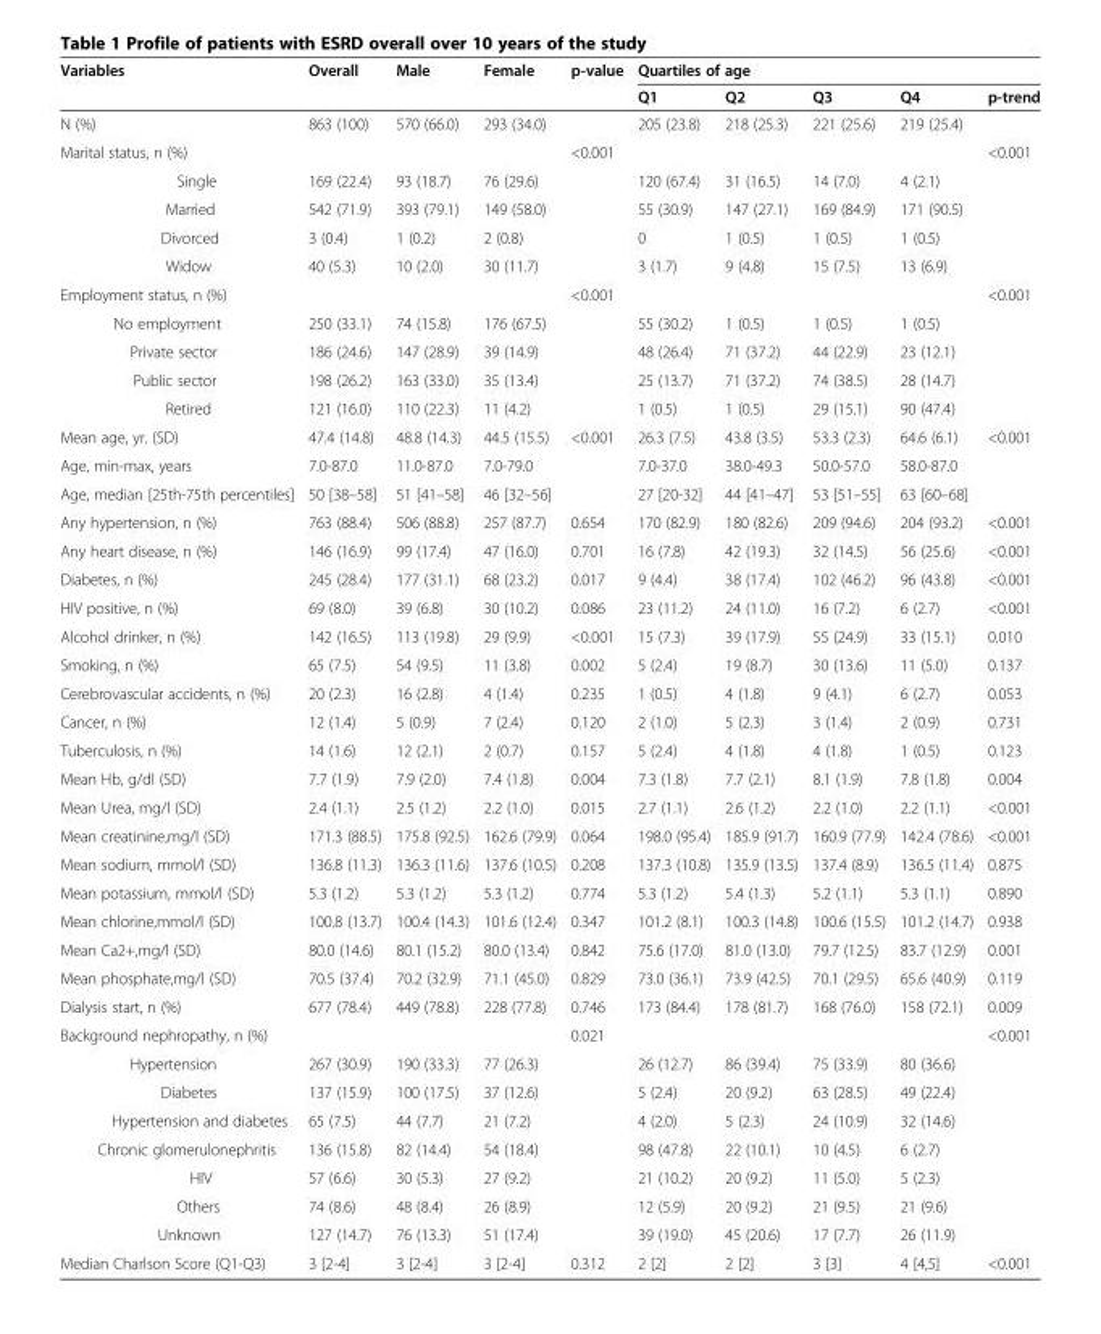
<table><thead><tr><td rowspan="2">Variables</td><td rowspan="2">Overall</td><td rowspan="2">Male</td><td rowspan="2">Female</td><td rowspan="2">p-value</td><td colspan="5">Quartiles of age</td></tr><tr><td>Q1</td><td>Q2</td><td>Q3</td><td>Q4</td><td>p-trend</td></tr></thead><tbody><tr><td>N (%)</td><td>863 (100)</td><td>570 (66.0)</td><td>293 (34.0)</td><td></td><td>205 (23.8)</td><td>218 (25.3)</td><td>221 (25.6)</td><td>219 (25.4)</td><td></td></tr><tr><td>Marital status, n (%)</td><td></td><td></td><td></td><td>&lt;0.001</td><td></td><td></td><td></td><td></td><td>&lt;0.001</td></tr><tr><td>Single</td><td>169 (22.4)</td><td>93 (18.7)</td><td>76 (29.6)</td><td></td><td>120 (67.4)</td><td>31 (16.5)</td><td>14 (7.0)</td><td>4 (2.1)</td><td></td></tr><tr><td>Married</td><td>542 (71.9)</td><td>393 (79.1)</td><td>149 (58.0)</td><td></td><td>55 (30.9)</td><td>147 (27.1)</td><td>169 (84.9)</td><td>171 (90.5)</td><td></td></tr><tr><td>Divorced</td><td>3 (0.4)</td><td>1 (0.2)</td><td>2 (0.8)</td><td></td><td>0</td><td>1 (0.5)</td><td>1 (0.5)</td><td>1 (0.5)</td><td></td></tr><tr><td>Widow</td><td>40 (5.3)</td><td>10 (2.0)</td><td>30 (11.7)</td><td></td><td>3 (1.7)</td><td>9 (4.8)</td><td>15 (7.5)</td><td>13 (6.9)</td><td></td></tr><tr><td>Employment status, n (%)</td><td></td><td></td><td></td><td>&lt;0.001</td><td></td><td></td><td></td><td></td><td>&lt;0.001</td></tr><tr><td>No employment</td><td>250 (33.1)</td><td>74 (15.8)</td><td>176 (67.5)</td><td></td><td>55 (30.2)</td><td>1 (0.5)</td><td>1 (0.5)</td><td>1 (0.5)</td><td></td></tr><tr><td>Private sector</td><td>186 (24.6)</td><td>147 (28.9)</td><td>39 (14.9)</td><td></td><td>48 (26.4)</td><td>71 (37.2)</td><td>44 (22.9)</td><td>23 (12.1)</td><td></td></tr><tr><td>Public sector</td><td>198 (26.2)</td><td>163 (33.0)</td><td>35 (13.4)</td><td></td><td>25 (13.7)</td><td>71 (37.2)</td><td>74 (38.5)</td><td>28 (14.7)</td><td></td></tr><tr><td>Retired</td><td>121 (16.0)</td><td>110 (22.3)</td><td>11 (4.2)</td><td></td><td>1 (0.5)</td><td>1 (0.5)</td><td>29 (15.1)</td><td>90 (47.4)</td><td></td></tr><tr><td>Mean age, yr. (SD)</td><td>47.4 (14.8)</td><td>48.8 (14.3)</td><td>44.5 (15.5)</td><td>&lt;0.001</td><td>26.3 (7.5)</td><td>43.8 (3.5)</td><td>53.3 (2.3)</td><td>64.6 (6.1)</td><td>&lt;0.001</td></tr><tr><td>Age, min-max, years</td><td>7.0-87.0</td><td>11.0-87.0</td><td>7.0-79.0</td><td></td><td>7.0-37.0</td><td>38.0-49.3</td><td>50.0-57.0</td><td>58.0-87.0</td><td></td></tr><tr><td>Age, median [25th-75th percentiles]</td><td>50 [38–58]</td><td>51 [41–58]</td><td>46 [32–56]</td><td></td><td>27 [20-32]</td><td>44 [41–47]</td><td>53 [51–55]</td><td>63 [60–68]</td><td></td></tr><tr><td>Any hypertension, n (%)</td><td>763 (88.4)</td><td>506 (88.8)</td><td>257 (87.7)</td><td>0.654</td><td>170 (82.9)</td><td>180 (82.6)</td><td>209 (94.6)</td><td>204 (93.2)</td><td>&lt;0.001</td></tr><tr><td>Any heart disease, n (%)</td><td>146 (16.9)</td><td>99 (17.4)</td><td>47 (16.0)</td><td>0.701</td><td>16 (7.8)</td><td>42 (19.3)</td><td>32 (14.5)</td><td>56 (25.6)</td><td>&lt;0.001</td></tr><tr><td>Diabetes, n (%)</td><td>245 (28.4)</td><td>177 (31.1)</td><td>68 (23.2)</td><td>0.017</td><td>9 (4.4)</td><td>38 (17.4)</td><td>102 (46.2)</td><td>96 (43.8)</td><td>&lt;0.001</td></tr><tr><td>HIV positive, n (%)</td><td>69 (8.0)</td><td>39 (6.8)</td><td>30 (10.2)</td><td>0.086</td><td>23 (11.2)</td><td>24 (11.0)</td><td>16 (7.2)</td><td>6 (2.7)</td><td>&lt;0.001</td></tr><tr><td>Alcohol drinker, n (%)</td><td>142 (16.5)</td><td>113 (19.8)</td><td>29 (9.9)</td><td>&lt;0.001</td><td>15 (7.3)</td><td>39 (17.9)</td><td>55 (24.9)</td><td>33 (15.1)</td><td>0.010</td></tr><tr><td>Smoking, n (%)</td><td>65 (7.5)</td><td>54 (9.5)</td><td>11 (3.8)</td><td>0.002</td><td>5 (2.4)</td><td>19 (8.7)</td><td>30 (13.6)</td><td>11 (5.0)</td><td>0.137</td></tr><tr><td>Cerebrovascular accidents, n (%)</td><td>20 (2.3)</td><td>16 (2.8)</td><td>4 (1.4)</td><td>0.235</td><td>1 (0.5)</td><td>4 (1.8)</td><td>9 (4.1)</td><td>6 (2.7)</td><td>0.053</td></tr><tr><td>Cancer, n (%)</td><td>12 (1.4)</td><td>5 (0.9)</td><td>7 (2.4)</td><td>0.120</td><td>2 (1.0)</td><td>5 (2.3)</td><td>3 (1.4)</td><td>2 (0.9)</td><td>0.731</td></tr><tr><td>Tuberculosis, n (%)</td><td>14 (1.6)</td><td>12 (2.1)</td><td>2 (0.7)</td><td>0.157</td><td>5 (2.4)</td><td>4 (1.8)</td><td>4 (1.8)</td><td>1 (0.5)</td><td>0.123</td></tr><tr><td>Mean Hb, g/dl (SD)</td><td>7.7 (1.9)</td><td>7.9 (2.0)</td><td>7.4 (1.8)</td><td>0.004</td><td>7.3 (1.8)</td><td>7.7 (2.1)</td><td>8.1 (1.9)</td><td>7.8 (1.8)</td><td>0.004</td></tr><tr><td>Mean Urea, mg/l (SD)</td><td>2.4 (1.1)</td><td>2.5 (1.2)</td><td>2.2 (1.0)</td><td>0.015</td><td>2.7 (1.1)</td><td>2.6 (1.2)</td><td>2.2 (1.0)</td><td>2.2 (1.1)</td><td>&lt;0.001</td></tr><tr><td>Mean creatinine,mg/l (SD)</td><td>171.3 (88.5)</td><td>175.8 (92.5)</td><td>162.6 (79.9)</td><td>0.064</td><td>198.0 (95.4)</td><td>185.9 (91.7)</td><td>160.9 (77.9)</td><td>142.4 (78.6)</td><td>&lt;0.001</td></tr><tr><td>Mean sodium, mmol/l (SD)</td><td>136.8 (11.3)</td><td>136.3 (11.6)</td><td>137.6 (10.5)</td><td>0.208</td><td>137.3 (10.8)</td><td>135.9 (13.5)</td><td>137.4 (8.9)</td><td>136.5 (11.4)</td><td>0.875</td></tr><tr><td>Mean potassium, mmol/l (SD)</td><td>5.3 (1.2)</td><td>5.3 (1.2)</td><td>5.3 (1.2)</td><td>0.774</td><td>5.3 (1.2)</td><td>5.4 (1.3)</td><td>5.2 (1.1)</td><td>5.3 (1.1)</td><td>0.890</td></tr><tr><td>Mean chlorine,mmol/l (SD)</td><td>100.8 (13.7)</td><td>100.4 (14.3)</td><td>101.6 (12.4)</td><td>0.347</td><td>101.2 (8.1)</td><td>100.3 (14.8)</td><td>100.6 (15.5)</td><td>101.2 (14.7)</td><td>0.938</td></tr><tr><td>Mean Ca2+,mg/l (SD)</td><td>80.0 (14.6)</td><td>80.1 (15.2)</td><td>80.0 (13.4)</td><td>0.842</td><td>75.6 (17.0)</td><td>81.0 (13.0)</td><td>79.7 (12.5)</td><td>83.7 (12.9)</td><td>0.001</td></tr><tr><td>Mean phosphate,mg/l (SD)</td><td>70.5 (37.4)</td><td>70.2 (32.9)</td><td>71.1 (45.0)</td><td>0.829</td><td>73.0 (36.1)</td><td>73.9 (42.5)</td><td>70.1 (29.5)</td><td>65.6 (40.9)</td><td>0.119</td></tr><tr><td>Dialysis start, n (%)</td><td>677 (78.4)</td><td>449 (78.8)</td><td>228 (77.8)</td><td>0.746</td><td>173 (84.4)</td><td>178 (81.7)</td><td>168 (76.0)</td><td>158 (72.1)</td><td>0.009</td></tr><tr><td>Background nephropathy, n (%)</td><td></td><td></td><td></td><td>0.021</td><td></td><td></td><td></td><td></td><td>&lt;0.001</td></tr><tr><td>Hypertension</td><td>267 (30.9)</td><td>190 (33.3)</td><td>77 (26.3)</td><td></td><td>26 (12.7)</td><td>86 (39.4)</td><td>75 (33.9)</td><td>80 (36.6)</td><td></td></tr><tr><td>Diabetes</td><td>137 (15.9)</td><td>100 (17.5)</td><td>37 (12.6)</td><td></td><td>5 (2.4)</td><td>20 (9.2)</td><td>63 (28.5)</td><td>49 (22.4)</td><td></td></tr><tr><td>Hypertension and diabetes</td><td>65 (7.5)</td><td>44 (7.7)</td><td>21 (7.2)</td><td></td><td>4 (2.0)</td><td>5 (2.3)</td><td>24 (10.9)</td><td>32 (14.6)</td><td></td></tr><tr><td>Chronic glomerulonephritis</td><td>136 (15.8)</td><td>82 (14.4)</td><td>54 (18.4)</td><td></td><td>98 (47.8)</td><td>22 (10.1)</td><td>10 (4.5)</td><td>6 (2.7)</td><td></td></tr><tr><td>HIV</td><td>57 (6.6)</td><td>30 (5.3)</td><td>27 (9.2)</td><td></td><td>21 (10.2)</td><td>20 (9.2)</td><td>11 (5.0)</td><td>5 (2.3)</td><td></td></tr><tr><td>Others</td><td>74 (8.6)</td><td>48 (8.4)</td><td>26 (8.9)</td><td></td><td>12 (5.9)</td><td>20 (9.2)</td><td>21 (9.5)</td><td>21 (9.6)</td><td></td></tr><tr><td>Unknown</td><td>127 (14.7)</td><td>76 (13.3)</td><td>51 (17.4)</td><td></td><td>39 (19.0)</td><td>45 (20.6)</td><td>17 (7.7)</td><td>26 (11.9)</td><td></td></tr><tr><td>Median Charlson Score (Q1-Q3)</td><td>3 [2-4]</td><td>3 [2-4]</td><td>3 [2-4]</td><td>0.312</td><td>2 [2]</td><td>2 [2]</td><td>3 [3]</td><td>4 [4,5]</td><td>&lt;0.001</td></tr></tbody></table>